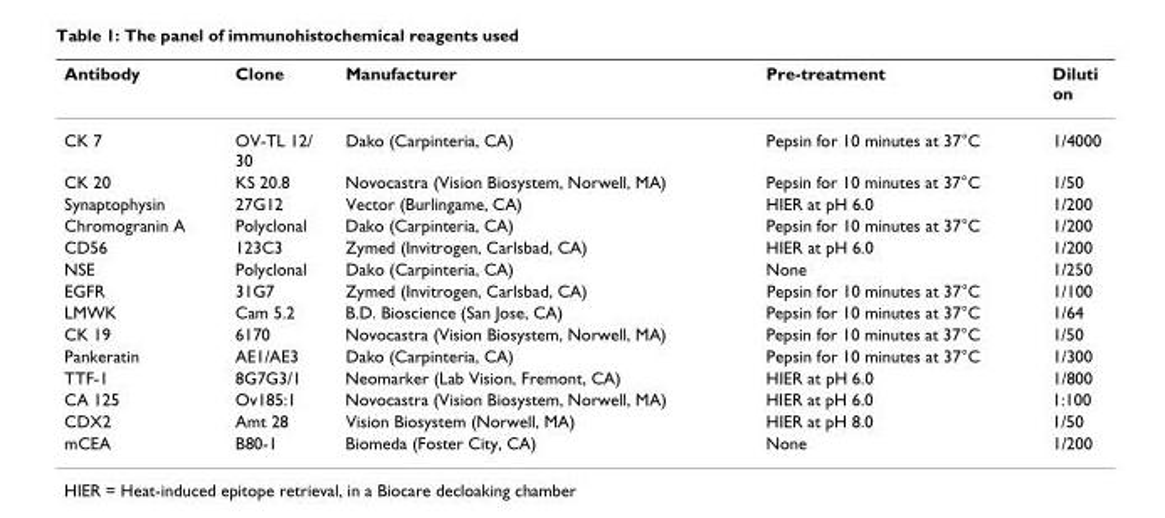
<table><thead><tr><td>Antibody</td><td>Clone</td><td>Manufacturer</td><td>Pre-treatment</td><td>Diluti on</td></tr></thead><tbody><tr><td>CK 7</td><td>OV-TL 12/ 30</td><td>Dako (Carpinteria, CA)</td><td>Pepsin for 10 minutes at 37°C</td><td>1/4000</td></tr><tr><td>CK 20</td><td>KS 20.8</td><td>Novocastra (Vision Biosystem, Norwell, MA)</td><td>Pepsin for 10 minutes at 37°C</td><td>1/50</td></tr><tr><td>Synaptophysin</td><td>27G12</td><td>Vector (Burlingame, CA)</td><td>HIER at pH 6.0</td><td>1/200</td></tr><tr><td>Chromogranin A</td><td>Polyclonal</td><td>Dako (Carpinteria, CA)</td><td>Pepsin for 10 minutes at 37°C</td><td>1/200</td></tr><tr><td>CD56</td><td>123C3</td><td>Zymed (Invitrogen, Carlsbad, CA)</td><td>HIER at pH 6.0</td><td>1/200</td></tr><tr><td>NSE</td><td>Polyclonal</td><td>Dako (Carpinteria, CA)</td><td>None</td><td>1/250</td></tr><tr><td>EGFR</td><td>31G7</td><td>Zymed (Invitrogen, Carlsbad, CA)</td><td>Pepsin for 10 minutes at 37°C</td><td>1/100</td></tr><tr><td>LMWK</td><td>Cam 5.2</td><td>B.D. Bioscience (San Jose, CA)</td><td>Pepsin for 10 minutes at 37°C</td><td>1/64</td></tr><tr><td>CK 19</td><td>6170</td><td>Novocastra (Vision Biosystem, Norwell, MA)</td><td>Pepsin for 10 minutes at 37°C</td><td>1/50</td></tr><tr><td>Pankeratin</td><td>AE1/AE3</td><td>Dako (Carpinteria, CA)</td><td>Pepsin for 10 minutes at 37°C</td><td>1/300</td></tr><tr><td>TTF-1</td><td>8G7G3/1</td><td>Neomarker (Lab Vision, Fremont, CA)</td><td>HIER at pH 6.0</td><td>1/800</td></tr><tr><td>CA 125</td><td>Ov185:1</td><td>Novocastra (Vision Biosystem, Norwell, MA)</td><td>HIER at pH 6.0</td><td>1:100</td></tr><tr><td>CDX2</td><td>Amt 28</td><td>Vision Biosystem (Norwell, MA)</td><td>HIER at pH 8.0</td><td>1/50</td></tr><tr><td>mCEA</td><td>B80-1</td><td>Biomeda (Foster City, CA)</td><td>None</td><td>1/200</td></tr></tbody></table>